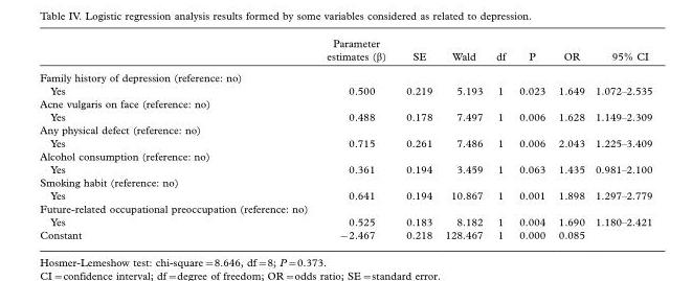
<table><thead><tr><td></td><td>Parameter estimates (β)</td><td>SE</td><td>Wald</td><td>df</td><td>P</td><td>OR</td><td>95% CI</td></tr></thead><tbody><tr><td colspan="8">Family history of depression (reference: no)</td></tr><tr><td>Yes</td><td>0.500</td><td>0.219</td><td>5.193</td><td>1</td><td>0.023</td><td>1.649</td><td>1.072–2.535</td></tr><tr><td colspan="8">Acne vulgaris on face (reference: no)</td></tr><tr><td>Yes</td><td>0.488</td><td>0.178</td><td>7.497</td><td>1</td><td>0.006</td><td>1.628</td><td>1.149–2.309</td></tr><tr><td colspan="8">Any physical defect (reference: no)</td></tr><tr><td>Yes</td><td>0.715</td><td>0.261</td><td>7.486</td><td>1</td><td>0.006</td><td>2.043</td><td>1.225–3.409</td></tr><tr><td colspan="8">Alcohol consumption (reference: no)</td></tr><tr><td>Yes</td><td>0.361</td><td>0.194</td><td>3.459</td><td>1</td><td>0.063</td><td>1.435</td><td>0.981–2.100</td></tr><tr><td colspan="8">Smoking habit (reference: no)</td></tr><tr><td>Yes</td><td>0.641</td><td>0.194</td><td>10.867</td><td>1</td><td>0.001</td><td>1.898</td><td>1.297–2.779</td></tr><tr><td colspan="8">Future-related occupational preoccupation (reference: no)</td></tr><tr><td>Yes</td><td>0.525</td><td>0.183</td><td>8.182</td><td>1</td><td>0.004</td><td>1.690</td><td>1.180–2.421</td></tr><tr><td>Constant</td><td>−2.467</td><td>0.218</td><td>128.467</td><td>1</td><td>0.000</td><td>0.085</td><td></td></tr></tbody></table>